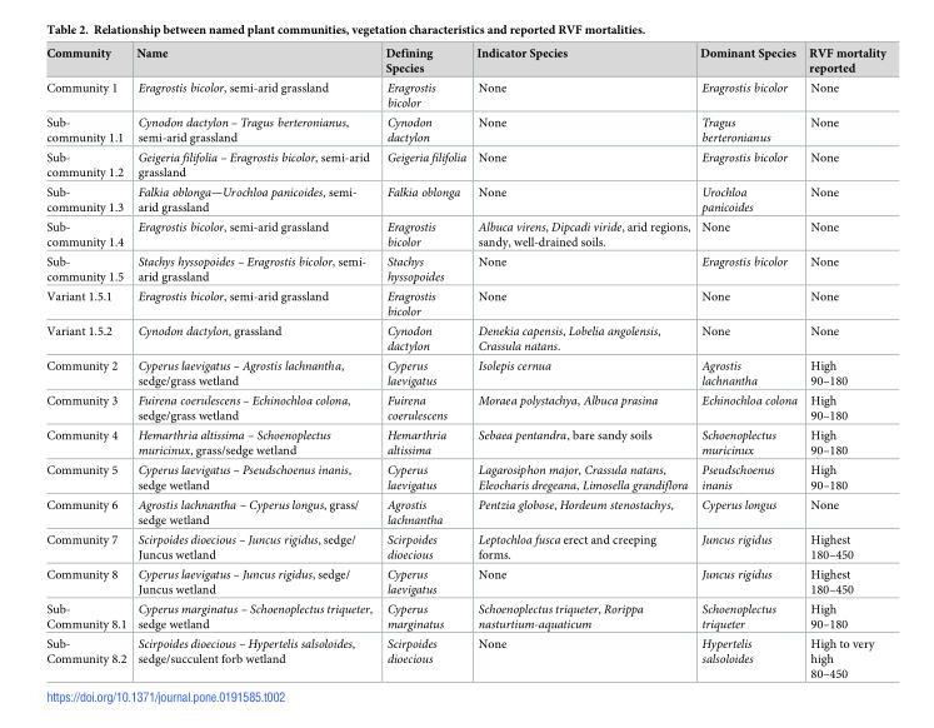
<table><thead><tr><td>Community</td><td>Name</td><td>Defining Species</td><td>Indicator Species</td><td>Dominant Species</td><td>RVF mortality reported</td></tr></thead><tbody><tr><td>Community 1</td><td>Eragrostis bicolor, semi-arid grassland</td><td>Eragrostis bicolor</td><td>None</td><td>Eragrostis bicolor</td><td>None</td></tr><tr><td>Sub- community 1.1</td><td>Cynodon dactylon – Tragus berteronianus, semi-arid grassland</td><td>Cynodon dactylon</td><td>None</td><td>Tragus berteronianus</td><td>None</td></tr><tr><td>Sub- community 1.2</td><td>Geigeria filifolia – Eragrostis bicolor, semi-arid grassland</td><td>Geigeria filifolia</td><td>None</td><td>Eragrostis bicolor</td><td>None</td></tr><tr><td>Sub- community 1.3</td><td>Falkia oblonga—Urochloa panicoides, semi- arid grassland</td><td>Falkia oblonga</td><td>None</td><td>Urochloa panicoides</td><td>None</td></tr><tr><td>Sub- community 1.4</td><td>Eragrostis bicolor, semi-arid grassland</td><td>Eragrostis bicolor</td><td>Albuca virens, Dipcadi viride, arid regions, sandy, well-drained soils.</td><td>None</td><td>None</td></tr><tr><td>Sub- community 1.5</td><td>Stachys hyssopoides – Eragrostis bicolor, semi- arid grassland</td><td>Stachys hyssopoides</td><td>None</td><td>Eragrostis bicolor</td><td>None</td></tr><tr><td>Variant 1.5.1</td><td>Eragrostis bicolor, semi-arid grassland</td><td>Eragrostis bicolor</td><td>None</td><td>None</td><td>None</td></tr><tr><td>Variant 1.5.2</td><td>Cynodon dactylon, grassland</td><td>Cynodon dactylon</td><td>Denekia capensis, Lobelia angolensis, Crassula natans.</td><td>None</td><td>None</td></tr><tr><td>Community 2</td><td>Cyperus laevigatus – Agrostis lachnantha, sedge/grass wetland</td><td>Cyperus laevigatus</td><td>Isolepis cernua</td><td>Agrostis lachnantha</td><td>High 90–180</td></tr><tr><td>Community 3</td><td>Fuirena coerulescens – Echinochloa colona, sedge/grass wetland</td><td>Fuirena coerulescens</td><td>Moraea polystachya, Albuca prasina</td><td>Echinochloa colona</td><td>High 90–180</td></tr><tr><td>Community 4</td><td>Hemarthria altissima – Schoenoplectus muricinux, grass/sedge wetland</td><td>Hemarthria altissima</td><td>Sebaea pentandra, bare sandy soils</td><td>Schoenoplectus muricinux</td><td>High 90–180</td></tr><tr><td>Community 5</td><td>Cyperus laevigatus – Pseudschoenus inanis, sedge wetland</td><td>Cyperus laevigatus</td><td>Lagarosiphon major, Crassula natans, Eleocharis dregeana, Limosella grandiflora</td><td>Pseudschoenus inanis</td><td>High 90–180</td></tr><tr><td>Community 6</td><td>Agrostis lachnantha – Cyperus longus, grass/ sedge wetland</td><td>Agrostis lachnantha</td><td>Pentzia globose, Hordeum stenostachys,</td><td>Cyperus longus</td><td>None</td></tr><tr><td>Community 7</td><td>Scirpoides dioecious – Juncus rigidus, sedge/ Juncus wetland</td><td>Scirpoides dioecious</td><td>Leptochloa fusca erect and creeping forms.</td><td>Juncus rigidus</td><td>Highest 180–450</td></tr><tr><td>Community 8</td><td>Cyperus laevigatus – Juncus rigidus, sedge/ Juncus wetland</td><td>Cyperus laevigatus</td><td>None</td><td>Juncus rigidus</td><td>Highest 180–450</td></tr><tr><td>Sub- Community 8.1</td><td>Cyperus marginatus – Schoenoplectus triqueter, sedge wetland</td><td>Cyperus marginatus</td><td>Schoenoplectus triqueter, Rorippa nasturtium-aquaticum</td><td>Schoenoplectus triqueter</td><td>High 90–180</td></tr><tr><td>Sub- Community 8.2</td><td>Scirpoides dioecious – Hypertelis salsoloides, sedge/succulent forb wetland</td><td>Scirpoides dioecious</td><td>None</td><td>Hypertelis salsoloides</td><td>High to very high 80–450</td></tr></tbody></table>